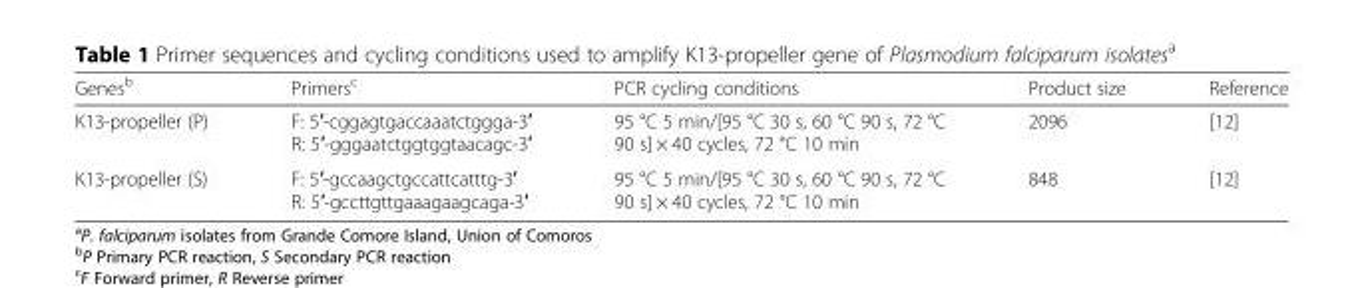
<table><thead><tr><td>Genes<sup>b</sup></td><td>Primers<sup>c</sup></td><td>PCR cycling conditions</td><td>Product size</td><td>Reference</td></tr></thead><tbody><tr><td>K13-propeller (P)</td><td>F: 5′-cggagtgaccaaatctggga-3′ R: 5′-gggaatctggtggtaacagc-3′</td><td>95 °C 5 min/[95 °C 30 s, 60 °C 90 s, 72 °C 90 s] × 40 cycles, 72 °C 10 min</td><td>2096</td><td>[12]</td></tr><tr><td>K13-propeller (S)</td><td>F: 5′-gccaagctgccattcatttg-3′ R: 5′-gccttgttgaaagaagcaga-3′</td><td>95 °C 5 min/[95 °C 30 s, 60 °C 90 s, 72 °C 90 s] × 40 cycles, 72 °C 10 min</td><td>848</td><td>[12]</td></tr></tbody></table>